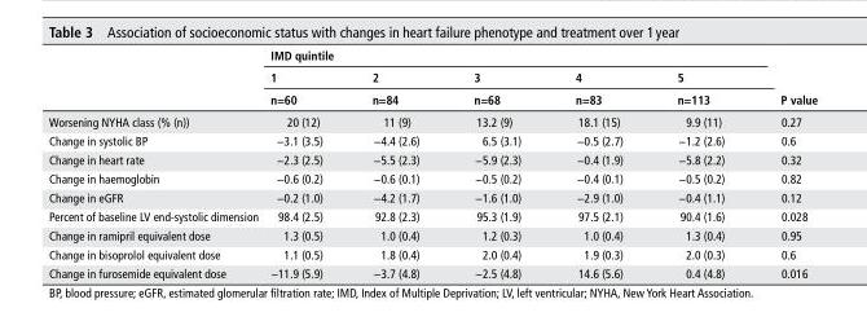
<table><thead><tr><td rowspan="3"></td><td colspan="5">IMd quintile</td><td rowspan="3">P value</td></tr><tr><td rowspan="2">1 n=60</td><td rowspan="2">2 n=84</td><td rowspan="2">3 n=68</td><td rowspan="2">4 n=83</td><td rowspan="2">5 n=113</td></tr><tr></tr></thead><tbody><tr><td>Worsening NYHA class (% (n))</td><td>20 (12)</td><td>11 (9)</td><td>13.2 (9)</td><td>18.1 (15)</td><td>9.9 (11)</td><td>0.27</td></tr><tr><td>Change in systolic BP</td><td>−3.1 (3.5)</td><td>−4.4 (2.6)</td><td>6.5 (3.1)</td><td>−0.5 (2.7)</td><td>−1.2 (2.6)</td><td>0.6</td></tr><tr><td>Change in heart rate</td><td>−2.3 (2.5)</td><td>−5.5 (2.3)</td><td>−5.9 (2.3)</td><td>−0.4 (1.9)</td><td>−5.8 (2.2)</td><td>0.32</td></tr><tr><td>Change in haemoglobin</td><td>−0.6 (0.2)</td><td>−0.6 (0.1)</td><td>−0.5 (0.2)</td><td>−0.4 (0.1)</td><td>−0.5 (0.2)</td><td>0.82</td></tr><tr><td>Change in eGFR</td><td>−0.2 (1.0)</td><td>−4.2 (1.7)</td><td>−1.6 (1.0)</td><td>−2.9 (1.0)</td><td>−0.4 (1.1)</td><td>0.12</td></tr><tr><td>Percent of baseline LV end-systolic dimension</td><td>98.4 (2.5)</td><td>92.8 (2.3)</td><td>95.3 (1.9)</td><td>97.5 (2.1)</td><td>90.4 (1.6)</td><td>0.028</td></tr><tr><td>Change in ramipril equivalent dose</td><td>1.3 (0.5)</td><td>1.0 (0.4)</td><td>1.2 (0.3)</td><td>1.0 (0.4)</td><td>1.3 (0.4)</td><td>0.95</td></tr><tr><td>Change in bisoprolol equivalent dose</td><td>1.1 (0.5)</td><td>1.8 (0.4)</td><td>2.0 (0.4)</td><td>1.9 (0.3)</td><td>2.0 (0.3)</td><td>0.6</td></tr><tr><td>Change in furosemide equivalent dose</td><td>−11.9 (5.9)</td><td>−3.7 (4.8)</td><td>−2.5 (4.8)</td><td>14.6 (5.6)</td><td>0.4 (4.8)</td><td>0.016</td></tr></tbody></table>